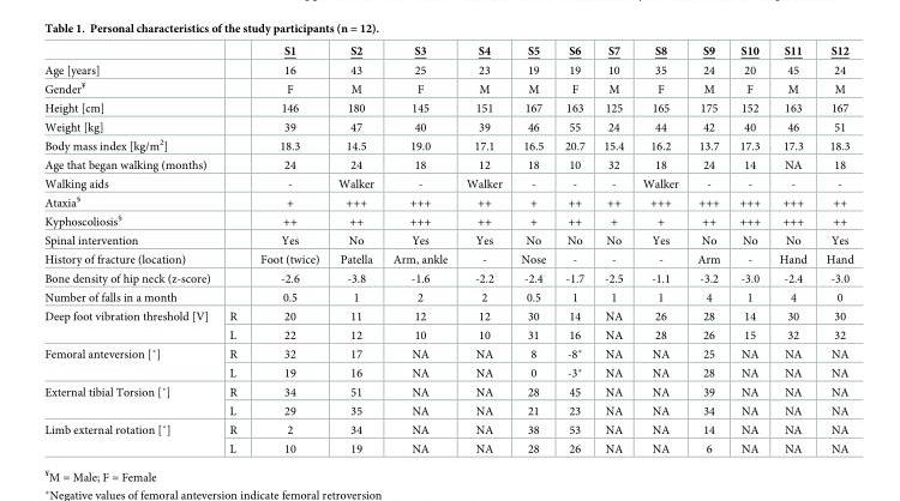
<table><thead><tr><td></td><td></td><td>S1</td><td>S2</td><td>S3</td><td>S4</td><td>S5</td><td>S6</td><td>S7</td><td>S8</td><td>S9</td><td>S10</td><td>S11</td><td>S12</td></tr></thead><tbody><tr><td>Age [years]</td><td></td><td>16</td><td>43</td><td>25</td><td>23</td><td>19</td><td>19</td><td>10</td><td>35</td><td>24</td><td>20</td><td>45</td><td>24</td></tr><tr><td>Gender<sup>¥</sup></td><td></td><td>F</td><td>M</td><td>F</td><td>M</td><td>M</td><td>F</td><td>M</td><td>F</td><td>M</td><td>F</td><td>M</td><td>M</td></tr><tr><td>Height [cm]</td><td></td><td>146</td><td>180</td><td>145</td><td>151</td><td>167</td><td>163</td><td>125</td><td>165</td><td>175</td><td>152</td><td>163</td><td>167</td></tr><tr><td>Weight [kg]</td><td></td><td>39</td><td>47</td><td>40</td><td>39</td><td>46</td><td>55</td><td>24</td><td>44</td><td>42</td><td>40</td><td>46</td><td>51</td></tr><tr><td>Body mass index [kg/m<sup>2</sup>]</td><td></td><td>18.3</td><td>14.5</td><td>19.0</td><td>17.1</td><td>16.5</td><td>20.7</td><td>15.4</td><td>16.2</td><td>13.7</td><td>17.3</td><td>17.3</td><td>18.3</td></tr><tr><td>Age that began walking (months)</td><td></td><td>24</td><td>24</td><td>18</td><td>12</td><td>18</td><td>10</td><td>32</td><td>18</td><td>24</td><td>14</td><td>NA</td><td>18</td></tr><tr><td>Walking aids</td><td></td><td>-</td><td>Walker</td><td>-</td><td>Walker</td><td>-</td><td>-</td><td>-</td><td>Walker</td><td>-</td><td>-</td><td>-</td><td>-</td></tr><tr><td>Ataxia<sup>§</sup></td><td></td><td>+</td><td>+++</td><td>+++</td><td>++</td><td>+</td><td>++</td><td>++</td><td>+++</td><td>+++</td><td>+++</td><td>+++</td><td>++</td></tr><tr><td>Kyphoscoliosis<sup>§</sup></td><td></td><td>++</td><td>++</td><td>+++</td><td>++</td><td>+</td><td>++</td><td>+</td><td>+</td><td>++</td><td>+++</td><td>+++</td><td>++</td></tr><tr><td>Spinal intervention</td><td></td><td>Yes</td><td>No</td><td>Yes</td><td>Yes</td><td>No</td><td>No</td><td>No</td><td>Yes</td><td>No</td><td>No</td><td>No</td><td>Yes</td></tr><tr><td>History of fracture (location)</td><td></td><td>Foot (twice)</td><td>Patella</td><td>Arm, ankle</td><td>-</td><td>Nose</td><td>-</td><td>-</td><td>-</td><td>Arm</td><td>-</td><td>Hand</td><td>Hand</td></tr><tr><td>Bone density of hip neck (z-score)</td><td></td><td>-2.6</td><td>-3.8</td><td>-1.6</td><td>-2.2</td><td>-2.4</td><td>-1.7</td><td>-2.5</td><td>-1.1</td><td>-3.2</td><td>-3.0</td><td>-2.4</td><td>-3.0</td></tr><tr><td>Number of falls in a month</td><td></td><td>0.5</td><td>1</td><td>2</td><td>2</td><td>0.5</td><td>1</td><td>1</td><td>1</td><td>4</td><td>1</td><td>4</td><td>0</td></tr><tr><td rowspan="2">Deep foot vibration threshold [V]</td><td>R</td><td>20</td><td>11</td><td>12</td><td>12</td><td>30</td><td>14</td><td>NA</td><td>26</td><td>28</td><td>14</td><td>30</td><td>30</td></tr><tr><td>L</td><td>22</td><td>12</td><td>10</td><td>10</td><td>31</td><td>16</td><td>NA</td><td>28</td><td>26</td><td>15</td><td>32</td><td>32</td></tr><tr><td rowspan="2">Femoral anteversion [˚]</td><td>R</td><td>32</td><td>17</td><td>NA</td><td>NA</td><td>8</td><td>-8*</td><td>NA</td><td>NA</td><td>25</td><td>NA</td><td>NA</td><td>NA</td></tr><tr><td>L</td><td>19</td><td>16</td><td>NA</td><td>NA</td><td>0</td><td>-3*</td><td>NA</td><td>NA</td><td>28</td><td>NA</td><td>NA</td><td>NA</td></tr><tr><td rowspan="2">External tibial Torsion [˚]</td><td>R</td><td>34</td><td>51</td><td>NA</td><td>NA</td><td>28</td><td>45</td><td>NA</td><td>NA</td><td>39</td><td>NA</td><td>NA</td><td>NA</td></tr><tr><td>L</td><td>29</td><td>35</td><td>NA</td><td>NA</td><td>21</td><td>23</td><td>NA</td><td>NA</td><td>34</td><td>NA</td><td>NA</td><td>NA</td></tr><tr><td rowspan="2">Limb external rotation [˚]</td><td>R</td><td>2</td><td>34</td><td>NA</td><td>NA</td><td>38</td><td>53</td><td>NA</td><td>NA</td><td>14</td><td>NA</td><td>NA</td><td>NA</td></tr><tr><td>L</td><td>10</td><td>19</td><td>NA</td><td>NA</td><td>28</td><td>26</td><td>NA</td><td>NA</td><td>6</td><td>NA</td><td>NA</td><td>NA</td></tr></tbody></table>